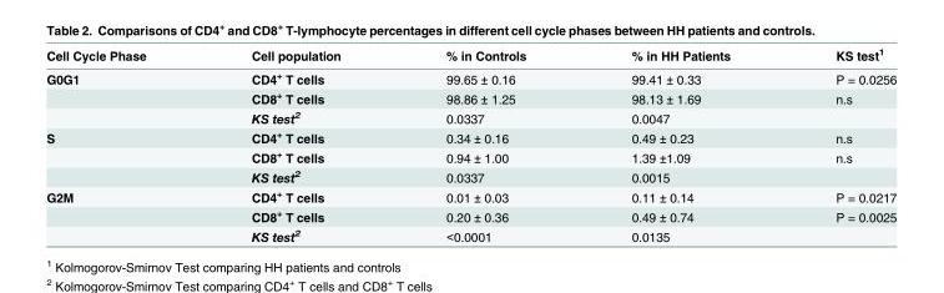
<table><thead><tr><td>Cell Cycle Phase</td><td>Cell population</td><td>% in Controls</td><td>% in HH Patients</td><td>KS test<sup>1</sup></td></tr></thead><tbody><tr><td rowspan="3">G0G1</td><td>CD4<sup>+</sup> T cells</td><td>99.65 ± 0.16</td><td>99.41 ± 0.33</td><td>P = 0.0256</td></tr><tr><td>CD8<sup>+</sup> T cells</td><td>98.86 ± 1.25</td><td>98.13 ± 1.69</td><td>n.s</td></tr><tr><td>KS test<sup>2</sup></td><td>0.0337</td><td>0.0047</td><td></td></tr><tr><td rowspan="3">S</td><td>CD4<sup>+</sup> T cells</td><td>0.34 ± 0.16</td><td>0.49 ± 0.23</td><td>n.s</td></tr><tr><td>CD8<sup>+</sup> T cells</td><td>0.94 ± 1.00</td><td>1.39 ±1.09</td><td>n.s</td></tr><tr><td>KS test<sup>2</sup></td><td>0.0337</td><td>0.0015</td><td></td></tr><tr><td rowspan="3">G2M</td><td>CD4<sup>+</sup> T cells</td><td>0.01 ± 0.03</td><td>0.11 ± 0.14</td><td>P = 0.0217</td></tr><tr><td>CD8<sup>+</sup> T cells</td><td>0.20 ± 0.36</td><td>0.49 ± 0.74</td><td>P = 0.0025</td></tr><tr><td>KS test<sup>2</sup></td><td>&lt;0.0001</td><td>0.0135</td><td></td></tr></tbody></table>